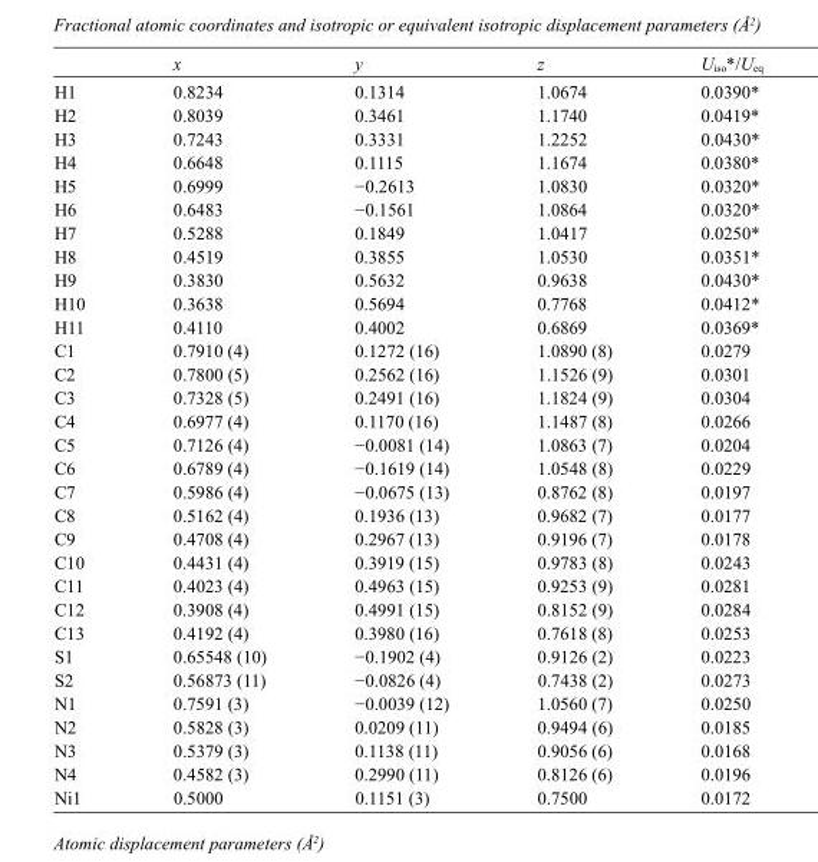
<table><thead><tr><td></td><td>x</td><td>y</td><td>z</td><td>U<sub>iso</sub>*/U<sub>eq</sub></td></tr></thead><tbody><tr><td>H1</td><td>0.8234</td><td>0.1314</td><td>1.0674</td><td>0.0390*</td></tr><tr><td>H2</td><td>0.8039</td><td>0.3461</td><td>1.1740</td><td>0.0419*</td></tr><tr><td>H3</td><td>0.7243</td><td>0.3331</td><td>1.2252</td><td>0.0430*</td></tr><tr><td>H4</td><td>0.6648</td><td>0.1115</td><td>1.1674</td><td>0.0380*</td></tr><tr><td>H5</td><td>0.6999</td><td>−0.2613</td><td>1.0830</td><td>0.0320*</td></tr><tr><td>H6</td><td>0.6483</td><td>−0.1561</td><td>1.0864</td><td>0.0320*</td></tr><tr><td>H7</td><td>0.5288</td><td>0.1849</td><td>1.0417</td><td>0.0250*</td></tr><tr><td>H8</td><td>0.4519</td><td>0.3855</td><td>1.0530</td><td>0.0351*</td></tr><tr><td>H9</td><td>0.3830</td><td>0.5632</td><td>0.9638</td><td>0.0430*</td></tr><tr><td>H10</td><td>0.3638</td><td>0.5694</td><td>0.7768</td><td>0.0412*</td></tr><tr><td>H11</td><td>0.4110</td><td>0.4002</td><td>0.6869</td><td>0.0369*</td></tr><tr><td>C1</td><td>0.7910 (4)</td><td>0.1272 (16)</td><td>1.0890 (8)</td><td>0.0279</td></tr><tr><td>C2</td><td>0.7800 (5)</td><td>0.2562 (16)</td><td>1.1526 (9)</td><td>0.0301</td></tr><tr><td>C3</td><td>0.7328 (5)</td><td>0.2491 (16)</td><td>1.1824 (9)</td><td>0.0304</td></tr><tr><td>C4</td><td>0.6977 (4)</td><td>0.1170 (16)</td><td>1.1487 (8)</td><td>0.0266</td></tr><tr><td>C5</td><td>0.7126 (4)</td><td>−0.0081 (14)</td><td>1.0863 (7)</td><td>0.0204</td></tr><tr><td>C6</td><td>0.6789 (4)</td><td>−0.1619 (14)</td><td>1.0548 (8)</td><td>0.0229</td></tr><tr><td>C7</td><td>0.5986 (4)</td><td>−0.0675 (13)</td><td>0.8762 (8)</td><td>0.0197</td></tr><tr><td>C8</td><td>0.5162 (4)</td><td>0.1936 (13)</td><td>0.9682 (7)</td><td>0.0177</td></tr><tr><td>C9</td><td>0.4708 (4)</td><td>0.2967 (13)</td><td>0.9196 (7)</td><td>0.0178</td></tr><tr><td>C10</td><td>0.4431 (4)</td><td>0.3919 (15)</td><td>0.9783 (8)</td><td>0.0243</td></tr><tr><td>C11</td><td>0.4023 (4)</td><td>0.4963 (15)</td><td>0.9253 (9)</td><td>0.0281</td></tr><tr><td>C12</td><td>0.3908 (4)</td><td>0.4991 (15)</td><td>0.8152 (9)</td><td>0.0284</td></tr><tr><td>C13</td><td>0.4192 (4)</td><td>0.3980 (16)</td><td>0.7618 (8)</td><td>0.0253</td></tr><tr><td>S1</td><td>0.65548 (10)</td><td>−0.1902 (4)</td><td>0.9126 (2)</td><td>0.0223</td></tr><tr><td>S2</td><td>0.56873 (11)</td><td>−0.0826 (4)</td><td>0.7438 (2)</td><td>0.0273</td></tr><tr><td>N1</td><td>0.7591 (3)</td><td>−0.0039 (12)</td><td>1.0560 (7)</td><td>0.0250</td></tr><tr><td>N2</td><td>0.5828 (3)</td><td>0.0209 (11)</td><td>0.9494 (6)</td><td>0.0185</td></tr><tr><td>N3</td><td>0.5379 (3)</td><td>0.1138 (11)</td><td>0.9056 (6)</td><td>0.0168</td></tr><tr><td>N4</td><td>0.4582 (3)</td><td>0.2990 (11)</td><td>0.8126 (6)</td><td>0.0196</td></tr><tr><td>Ni1</td><td>0.5000</td><td>0.1151 (3)</td><td>0.7500</td><td>0.0172</td></tr></tbody></table>